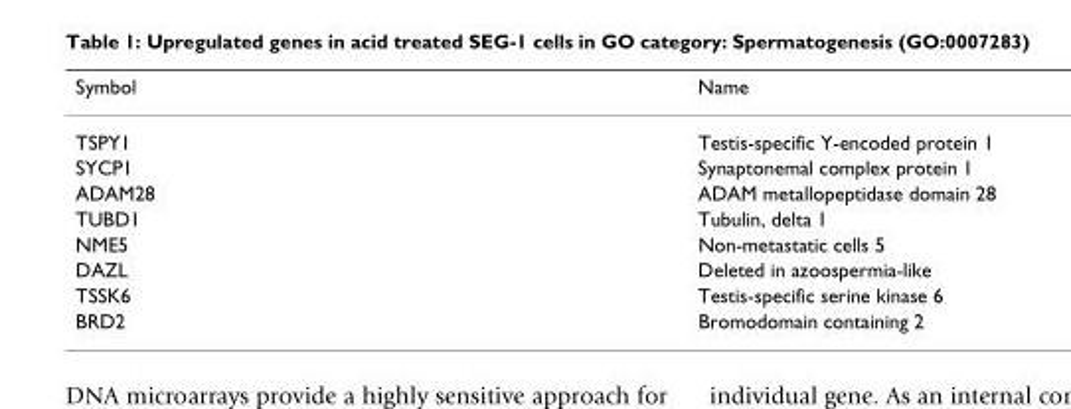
<table><thead><tr><td>Symbol</td><td>Name</td></tr></thead><tbody><tr><td>TSPY1</td><td>Testis-specific Y-encoded protein 1</td></tr><tr><td>SYCP1</td><td>Synaptonemal complex protein 1</td></tr><tr><td>ADAM28</td><td>ADAM metallopeptidase domain 28</td></tr><tr><td>TUBD1</td><td>Tubulin, delta 1</td></tr><tr><td>NME5</td><td>Non-metastatic cells 5</td></tr><tr><td>DAZL</td><td>Deleted in azoospermia-like</td></tr><tr><td>TSSK6</td><td>Testis-specific serine kinase 6</td></tr><tr><td>BRD2</td><td>Bromodomain containing 2</td></tr></tbody></table>